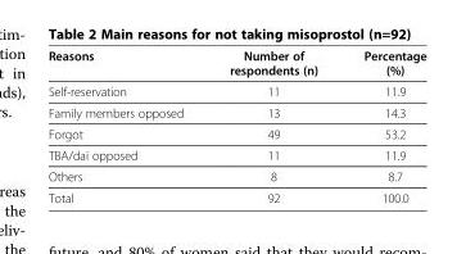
<table><thead><tr><td>Reasons</td><td>Number of respondents (n)</td><td>Percentage (%)</td></tr></thead><tbody><tr><td>Self-reservation</td><td>11</td><td>11.9</td></tr><tr><td>Family members opposed</td><td>13</td><td>14.3</td></tr><tr><td>Forgot</td><td>49</td><td>53.2</td></tr><tr><td>TBA/dai opposed</td><td>11</td><td>11.9</td></tr><tr><td>Others</td><td>8</td><td>8.7</td></tr><tr><td>Total</td><td>92</td><td>100.0</td></tr></tbody></table>